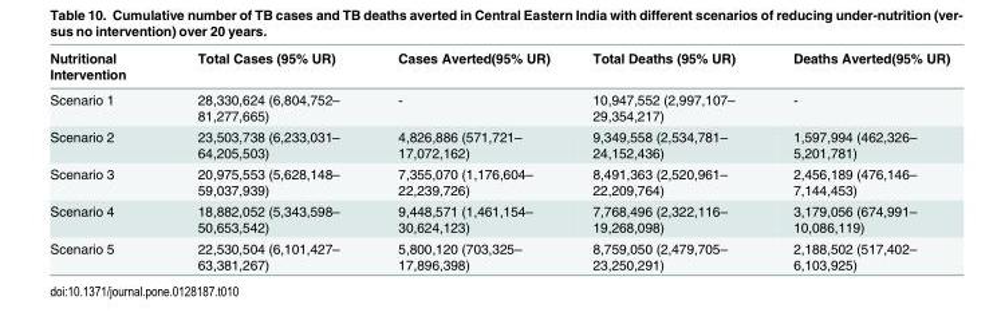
<table><thead><tr><td>Nutritional Intervention</td><td>Total Cases (95% UR)</td><td>Cases Averted(95% UR)</td><td>Total Deaths (95% UR)</td><td>Deaths Averted(95% UR)</td></tr></thead><tbody><tr><td>Scenario 1</td><td>28,330,624 (6,804,752– 81,277,665)</td><td>-</td><td>10,947,552 (2,997,107– 29,354,217)</td><td>-</td></tr><tr><td>Scenario 2</td><td>23,503,738 (6,233,031– 64,205,503)</td><td>4,826,886 (571,721– 17,072,162)</td><td>9,349,558 (2,534,781– 24,152,436)</td><td>1,597,994 (462,326– 5,201,781)</td></tr><tr><td>Scenario 3</td><td>20,975,553 (5,628,148– 59,037,939)</td><td>7,355,070 (1,176,604– 22,239,726)</td><td>8,491,363 (2,520,961– 22,209,764)</td><td>2,456,189 (476,146– 7,144,453)</td></tr><tr><td>Scenario 4</td><td>18,882,052 (5,343,598– 50,653,542)</td><td>9,448,571 (1,461,154– 30,624,123)</td><td>7,768,496 (2,322,116– 19,268,098)</td><td>3,179,056 (674,991– 10,086,119)</td></tr><tr><td>Scenario 5</td><td>22,530,504 (6,101,427– 63,381,267)</td><td>5,800,120 (703,325– 17,896,398)</td><td>8,759,050 (2,479,705– 23,250,291)</td><td>2,188,502 (517,402– 6,103,925)</td></tr></tbody></table>